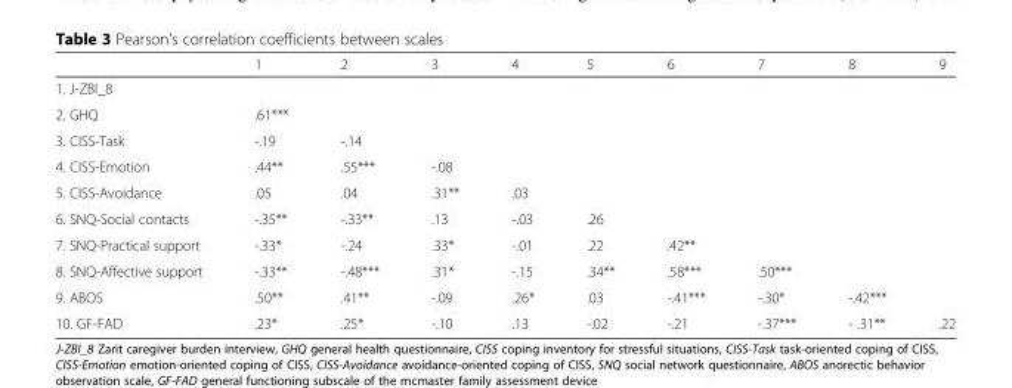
<table><thead><tr><td></td><td>1</td><td>2</td><td>3</td><td>4</td><td>5</td><td>6</td><td>7</td><td>8</td><td>9</td></tr></thead><tbody><tr><td colspan="10">1. J-ZBI_8</td></tr><tr><td>2. GHQ</td><td>.61***</td><td></td><td></td><td></td><td></td><td></td><td></td><td></td><td></td></tr><tr><td>3. CISS-Task</td><td>-.19</td><td>-.14</td><td></td><td></td><td></td><td></td><td></td><td></td><td></td></tr><tr><td>4. CISS-Emotion</td><td>.44**</td><td>.55***</td><td>-.08</td><td></td><td></td><td></td><td></td><td></td><td></td></tr><tr><td>5. CISS-Avoidance</td><td>.05</td><td>.04</td><td>.31**</td><td>.03</td><td></td><td></td><td></td><td></td><td></td></tr><tr><td>6. SNQ-Social contacts</td><td>-.35**</td><td>-.33**</td><td>.13</td><td>-.03</td><td>.26</td><td></td><td></td><td></td><td></td></tr><tr><td>7. SNQ-Practical support</td><td>-.33*</td><td>-.24</td><td>.33*</td><td>-.01</td><td>.22</td><td>.42**</td><td></td><td></td><td></td></tr><tr><td>8. SNQ-Affective support</td><td>-.33**</td><td>-.48***</td><td>.31*</td><td>-.15</td><td>.34**</td><td>.58***</td><td>.50***</td><td></td><td></td></tr><tr><td>9. ABOS</td><td>.50**</td><td>.41**</td><td>-.09</td><td>.26*</td><td>.03</td><td>-.41***</td><td>-.30*</td><td>-.42***</td><td></td></tr><tr><td>10. GF-FAD</td><td>.23*</td><td>.25*</td><td>-.10</td><td>.13</td><td>-.02</td><td>-.21</td><td>-.37***</td><td>- .31**</td><td>.22</td></tr></tbody></table>